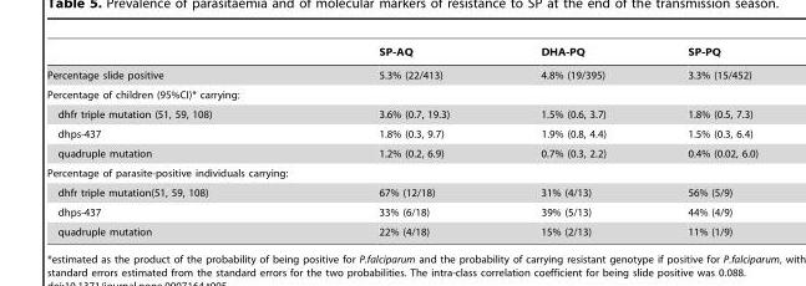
<table><thead><tr><td></td><td>SP-AQ</td><td>DHA-PQ</td><td>SP-PQ</td></tr></thead><tbody><tr><td>Percentage slide positive</td><td>5.3% (22/413)</td><td>4.8% (19/395)</td><td>3.3% (15/452)</td></tr><tr><td colspan="4">Percentage of children (95%CI)* carrying:</td></tr><tr><td>dhfr triple mutation (51, 59, 108)</td><td>3.6% (0.7, 19.3)</td><td>1.5% (0.6, 3.7)</td><td>1.8% (0.5, 7.3)</td></tr><tr><td>dhps-437</td><td>1.8% (0.3, 9.7)</td><td>1.9% (0.8, 4.4)</td><td>1.5% (0.3, 6.4)</td></tr><tr><td>quadruple mutation</td><td>1.2% (0.2, 6.9)</td><td>0.7% (0.3, 2.2)</td><td>0.4% (0.02, 6.0)</td></tr><tr><td colspan="4">Percentage of parasite-positive individuals carrying:</td></tr><tr><td>dhfr triple mutation(51, 59, 108)</td><td>67% (12/18)</td><td>31% (4/13)</td><td>56% (5/9)</td></tr><tr><td>dhps-437</td><td>33% (6/18)</td><td>39% (5/13)</td><td>44% (4/9)</td></tr><tr><td>quadruple mutation</td><td>22% (4/18)</td><td>15% (2/13)</td><td>11% (1/9)</td></tr></tbody></table>